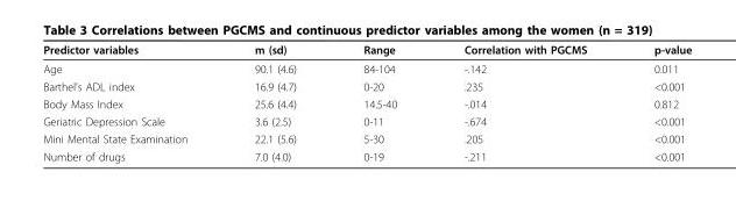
<table><thead><tr><td>Predictor variables</td><td>m (sd)</td><td>Range</td><td>Correlation with PGCMS</td><td>p-value</td></tr></thead><tbody><tr><td>Age</td><td>90.1 (4.6)</td><td>84-104</td><td>-.142</td><td>0.011</td></tr><tr><td>Barthel’s ADL index</td><td>16.9 (4.7)</td><td>0-20</td><td>.235</td><td>&lt;0.001</td></tr><tr><td>Body Mass Index</td><td>25.6 (4.4)</td><td>14.5-40</td><td>-.014</td><td>0.812</td></tr><tr><td>Geriatric Depression Scale</td><td>3.6 (2.5)</td><td>0-11</td><td>-.674</td><td>&lt;0.001</td></tr><tr><td>Mini Mental State Examination</td><td>22.1 (5.6)</td><td>5-30</td><td>.205</td><td>&lt;0.001</td></tr><tr><td>Number of drugs</td><td>7.0 (4.0)</td><td>0-19</td><td>-.211</td><td>&lt;0.001</td></tr></tbody></table>